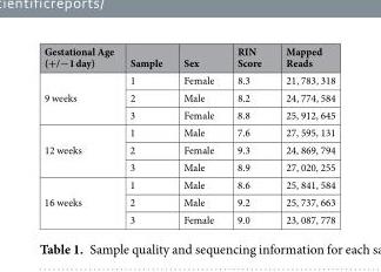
<table><thead><tr><td>Gestational Age (+/−1 day)</td><td>Sample</td><td>Sex</td><td>RIN Score</td><td>Mapped Reads</td></tr></thead><tbody><tr><td rowspan="3">9 weeks</td><td>1</td><td>Female</td><td>8.3</td><td>21, 783, 318</td></tr><tr><td>2</td><td>Male</td><td>8.2</td><td>24, 774, 584</td></tr><tr><td>3</td><td>Female</td><td>8.8</td><td>25, 912, 645</td></tr><tr><td rowspan="3">12 weeks</td><td>1</td><td>Male</td><td>7.6</td><td>27, 595, 131</td></tr><tr><td>2</td><td>Female</td><td>9.3</td><td>24, 869, 794</td></tr><tr><td>3</td><td>Male</td><td>8.9</td><td>27, 020, 255</td></tr><tr><td rowspan="3">16 weeks</td><td>1</td><td>Male</td><td>8.6</td><td>25, 841, 584</td></tr><tr><td>2</td><td>Male</td><td>9.2</td><td>25, 737, 663</td></tr><tr><td>3</td><td>Female</td><td>9.0</td><td>23, 087, 778</td></tr></tbody></table>